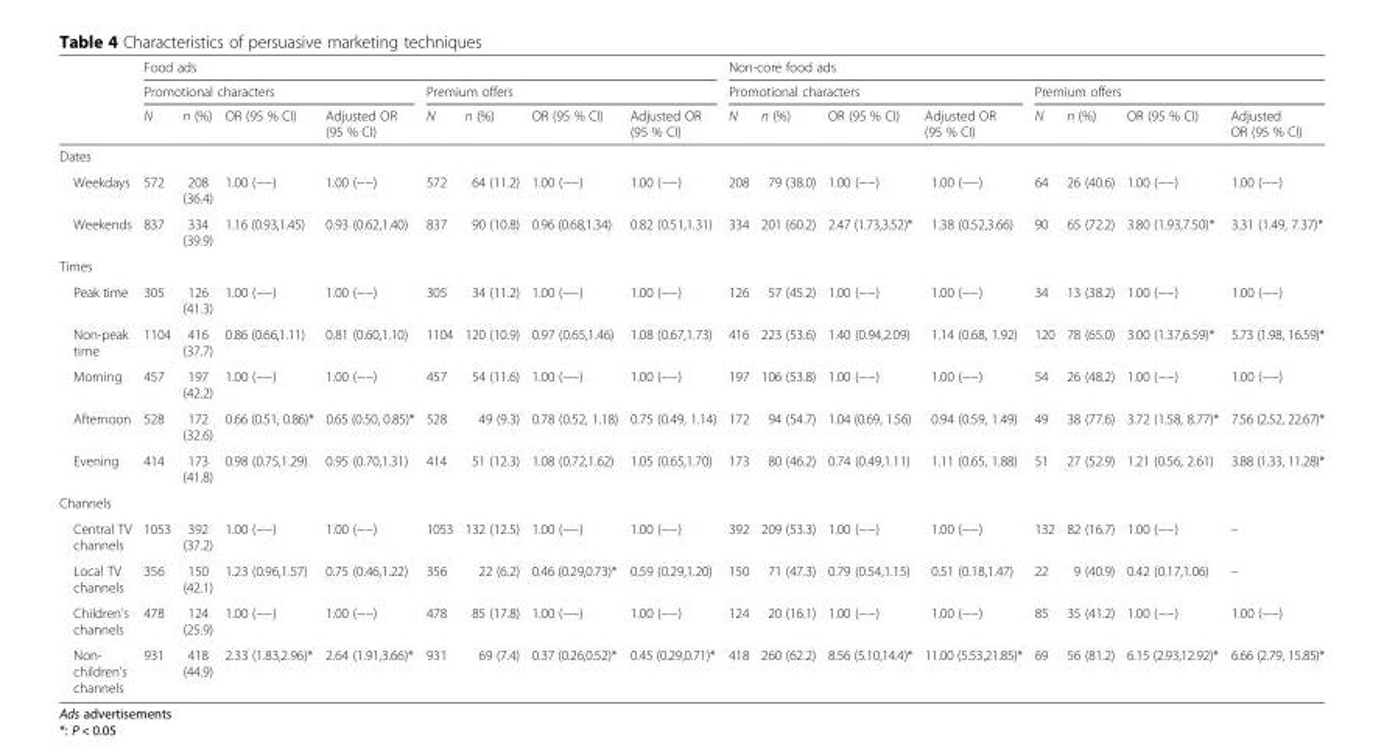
<table><thead><tr><td rowspan="3"></td><td colspan="8">Food ads</td><td colspan="8">Non-core food ads</td></tr><tr><td colspan="4">Promotional characters</td><td colspan="4">Premium offers</td><td colspan="4">Promotional characters</td><td colspan="4">Premium offers</td></tr><tr><td>N</td><td>n (%)</td><td>OR (95 % CI)</td><td>Adjusted OR (95 % CI)</td><td>N</td><td>n (%)</td><td>OR (95 % CI)</td><td>Adjusted OR (95 % CI)</td><td>N</td><td>n (%)</td><td>OR (95 % CI)</td><td>Adjusted OR (95 % CI)</td><td>N</td><td>n (%)</td><td>OR (95 % CI)</td><td>Adjusted OR (95 % CI)</td></tr></thead><tbody><tr><td colspan="17">Dates</td></tr><tr><td>Weekdays</td><td>572</td><td>208 (36.4)</td><td>1.00 (−−)</td><td>1.00 (−−)</td><td>572</td><td>64 (11.2)</td><td>1.00 (−−)</td><td>1.00 (−−)</td><td>208</td><td>79 (38.0)</td><td>1.00 (−−)</td><td>1.00 (−−)</td><td>64</td><td>26 (40.6)</td><td>1.00 (−−)</td><td>1.00 (−−)</td></tr><tr><td>Weekends</td><td>837</td><td>334 (39.9)</td><td>1.16 (0.93,1.45)</td><td>0.93 (0.62,1.40)</td><td>837</td><td>90 (10.8)</td><td>0.96 (0.68,1.34)</td><td>0.82 (0.51,1.31)</td><td>334</td><td>201 (60.2)</td><td>2.47 (1.73,3.52)*</td><td>1.38 (0.52,3.66)</td><td>90</td><td>65 (72.2)</td><td>3.80 (1.93,7.50)*</td><td>3.31 (1.49, 7.37)*</td></tr><tr><td colspan="17">Times</td></tr><tr><td>Peak time</td><td>305</td><td>126 (41.3)</td><td>1.00 (−−)</td><td>1.00 (−−)</td><td>305</td><td>34 (11.2)</td><td>1.00 (−−)</td><td>1.00 (−−)</td><td>126</td><td>57 (45.2)</td><td>1.00 (−−)</td><td>1.00 (−−)</td><td>34</td><td>13 (38.2)</td><td>1.00 (−−)</td><td>1.00 (−−)</td></tr><tr><td>Non-peak time</td><td>1104</td><td>416 (37.7)</td><td>0.86 (0.66,1.11)</td><td>0.81 (0.60,1.10)</td><td>1104</td><td>120 (10.9)</td><td>0.97 (0.65,1.46)</td><td>1.08 (0.67,1.73)</td><td>416</td><td>223 (53.6)</td><td>1.40 (0.94,2.09)</td><td>1.14 (0.68, 1.92)</td><td>120</td><td>78 (65.0)</td><td>3.00 (1.37,6.59)*</td><td>5.73 (1.98, 16.59)*</td></tr><tr><td>Morning</td><td>457</td><td>197 (42.2)</td><td>1.00 (−−)</td><td>1.00 (−−)</td><td>457</td><td>54 (11.6)</td><td>1.00 (−−)</td><td>1.00 (−−)</td><td>197</td><td>106 (53.8)</td><td>1.00 (−−)</td><td>1.00 (−−)</td><td>54</td><td>26 (48.2)</td><td>1.00 (−−)</td><td>1.00 (−−)</td></tr><tr><td>Afternoon</td><td>528</td><td>172 (32.6)</td><td>0.66 (0.51, 0.86)*</td><td>0.65 (0.50, 0.85)*</td><td>528</td><td>49 (9.3)</td><td>0.78 (0.52, 1.18)</td><td>0.75 (0.49, 1.14)</td><td>172</td><td>94 (54.7)</td><td>1.04 (0.69, 1.56)</td><td>0.94 (0.59, 1.49)</td><td>49</td><td>38 (77.6)</td><td>3.72 (1.58, 8.77)*</td><td>7.56 (2.52, 22.67)*</td></tr><tr><td>Evening</td><td>414</td><td>173 (41.8)</td><td>0.98 (0.75,1.29)</td><td>0.95 (0.70,1.31)</td><td>414</td><td>51 (12.3)</td><td>1.08 (0.72,1.62)</td><td>1.05 (0.65,1.70)</td><td>173</td><td>80 (46.2)</td><td>0.74 (0.49,1.11)</td><td>1.11 (0.65, 1.88)</td><td>51</td><td>27 (52.9)</td><td>1.21 (0.56, 2.61)</td><td>3.88 (1.33, 11.28)*</td></tr><tr><td colspan="17">Channels</td></tr><tr><td>Central TV channels</td><td>1053</td><td>392 (37.2)</td><td>1.00 (−−)</td><td>1.00 (−−)</td><td>1053</td><td>132 (12.5)</td><td>1.00 (−−)</td><td>1.00 (−−)</td><td>392</td><td>209 (53.3)</td><td>1.00 (−−)</td><td>1.00 (−−)</td><td>132</td><td>82 (16.7)</td><td>1.00 (−−)</td><td>–</td></tr><tr><td>Local TV channels</td><td>356</td><td>150 (42.1)</td><td>1.23 (0.96,1.57)</td><td>0.75 (0.46,1.22)</td><td>356</td><td>22 (6.2)</td><td>0.46 (0.29,0.73)*</td><td>0.59 (0.29,1.20)</td><td>150</td><td>71 (47.3)</td><td>0.79 (0.54,1.15)</td><td>0.51 (0.18,1.47)</td><td>22</td><td>9 (40.9)</td><td>0.42 (0.17,1.06)</td><td>–</td></tr><tr><td>Children’s channels</td><td>478</td><td>124 (25.9)</td><td>1.00 (−−)</td><td>1.00 (−−)</td><td>478</td><td>85 (17.8)</td><td>1.00 (−−)</td><td>1.00 (−−)</td><td>124</td><td>20 (16.1)</td><td>1.00 (−−)</td><td>1.00 (−−)</td><td>85</td><td>35 (41.2)</td><td>1.00 (−−)</td><td>1.00 (−−)</td></tr><tr><td>Non- children’s channels</td><td>931</td><td>418 (44.9)</td><td>2.33 (1.83,2.96)*</td><td>2.64 (1.91,3.66)*</td><td>931</td><td>69 (7.4)</td><td>0.37 (0.26,0.52)*</td><td>0.45 (0.29,0.71)*</td><td>418</td><td>260 (62.2)</td><td>8.56 (5.10,14.4)*</td><td>11.00 (5.53,21.85)*</td><td>69</td><td>56 (81.2)</td><td>6.15 (2.93,12.92)*</td><td>6.66 (2.79, 15.85)*</td></tr></tbody></table>